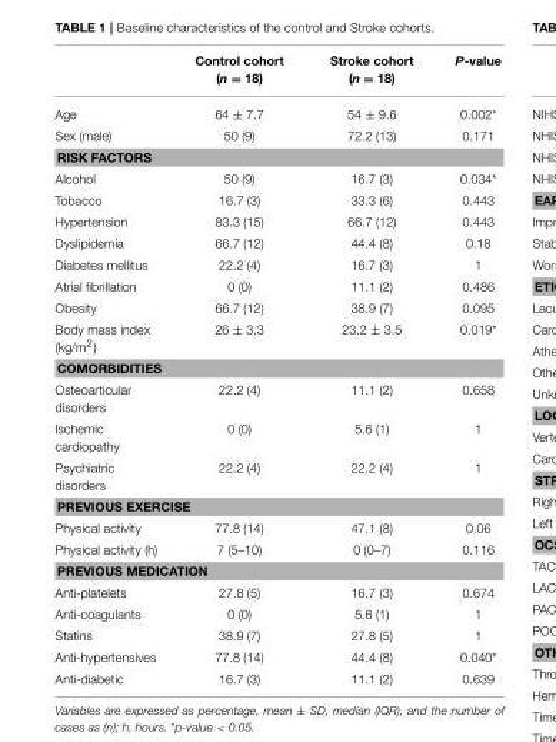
<table><thead><tr><td></td><td>Control cohort (n = 18)</td><td>Stroke cohort (n = 18)</td><td>P-value</td></tr></thead><tbody><tr><td>Age</td><td>64 ± 7.7</td><td>54 ± 9.6</td><td>0.002*</td></tr><tr><td>Sex (male)</td><td>50 (9)</td><td>72.2 (13)</td><td>0.171</td></tr><tr><td colspan="4">RISK FACTORS</td></tr><tr><td>Alcohol</td><td>50 (9)</td><td>16.7 (3)</td><td>0.034*</td></tr><tr><td>Tobacco</td><td>16.7 (3)</td><td>33.3 (6)</td><td>0.443</td></tr><tr><td>Hypertension</td><td>83.3 (15)</td><td>66.7 (12)</td><td>0.443</td></tr><tr><td>Dyslipidemia</td><td>66.7 (12)</td><td>44.4 (8)</td><td>0.18</td></tr><tr><td>Diabetes mellitus</td><td>22.2 (4)</td><td>16.7 (3)</td><td>1</td></tr><tr><td>Atrial fibrillation</td><td>0 (0)</td><td>11.1 (2)</td><td>0.486</td></tr><tr><td>Obesity</td><td>66.7 (12)</td><td>38.9 (7)</td><td>0.095</td></tr><tr><td>Body mass index (kg/m<sup>2</sup>)</td><td>26 ± 3.3</td><td>23.2 ± 3.5</td><td>0.019*</td></tr><tr><td colspan="4">COMORBIDITIES</td></tr><tr><td>Osteoarticular disorders</td><td>22.2 (4)</td><td>11.1 (2)</td><td>0.658</td></tr><tr><td>Ischemic cardiopathy</td><td>0 (0)</td><td>5.6 (1)</td><td>1</td></tr><tr><td>Psychiatric disorders</td><td>22.2 (4)</td><td>22.2 (4)</td><td>1</td></tr><tr><td colspan="4">PREVIOUS EXERCISE</td></tr><tr><td>Physical activity</td><td>77.8 (14)</td><td>47.1 (8)</td><td>0.06</td></tr><tr><td>Physical activity (h)</td><td>7 (5–10)</td><td>0 (0–7)</td><td>0.116</td></tr><tr><td colspan="4">PREVIOUS MEDICATION</td></tr><tr><td>Anti-platelets</td><td>27.8 (5)</td><td>16.7 (3)</td><td>0.674</td></tr><tr><td>Anti-coagulants</td><td>0 (0)</td><td>5.6 (1)</td><td>1</td></tr><tr><td>Statins</td><td>38.9 (7)</td><td>27.8 (5)</td><td>1</td></tr><tr><td>Anti-hypertensives</td><td>77.8 (14)</td><td>44.4 (8)</td><td>0.040*</td></tr><tr><td>Anti-diabetic</td><td>16.7 (3)</td><td>11.1 (2)</td><td>0.639</td></tr></tbody></table>